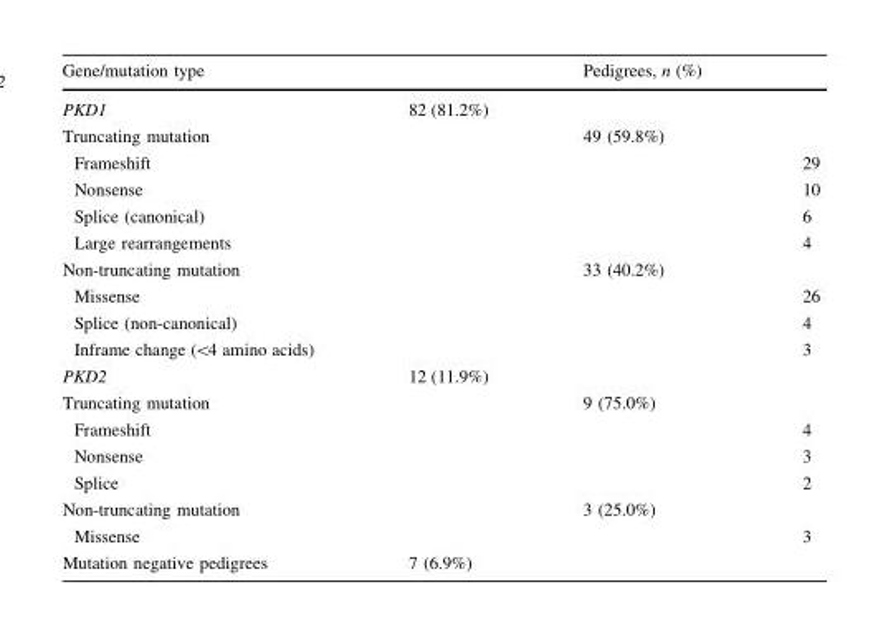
<table><thead><tr><td>Gene/mutation type</td><td></td><td>Pedigrees, n (%)</td><td></td></tr></thead><tbody><tr><td>PKD1</td><td>82 (81.2%)</td><td></td><td></td></tr><tr><td>Truncating mutation</td><td></td><td>49 (59.8%)</td><td></td></tr><tr><td>Frameshift</td><td></td><td></td><td>29</td></tr><tr><td>Nonsense</td><td></td><td></td><td>10</td></tr><tr><td>Splice (canonical)</td><td></td><td></td><td>6</td></tr><tr><td>Large rearrangements</td><td></td><td></td><td>4</td></tr><tr><td>Non-truncating mutation</td><td></td><td>33 (40.2%)</td><td></td></tr><tr><td>Missense</td><td></td><td></td><td>26</td></tr><tr><td>Splice (non-canonical)</td><td></td><td></td><td>4</td></tr><tr><td>Inframe change (&lt;4 amino acids)</td><td></td><td></td><td>3</td></tr><tr><td>PKD2</td><td>12 (11.9%)</td><td></td><td></td></tr><tr><td>Truncating mutation</td><td></td><td>9 (75.0%)</td><td></td></tr><tr><td>Frameshift</td><td></td><td></td><td>4</td></tr><tr><td>Nonsense</td><td></td><td></td><td>3</td></tr><tr><td>Splice</td><td></td><td></td><td>2</td></tr><tr><td>Non-truncating mutation</td><td></td><td>3 (25.0%)</td><td></td></tr><tr><td>Missense</td><td></td><td></td><td>3</td></tr><tr><td>Mutation negative pedigrees</td><td>7 (6.9%)</td><td></td><td></td></tr></tbody></table>